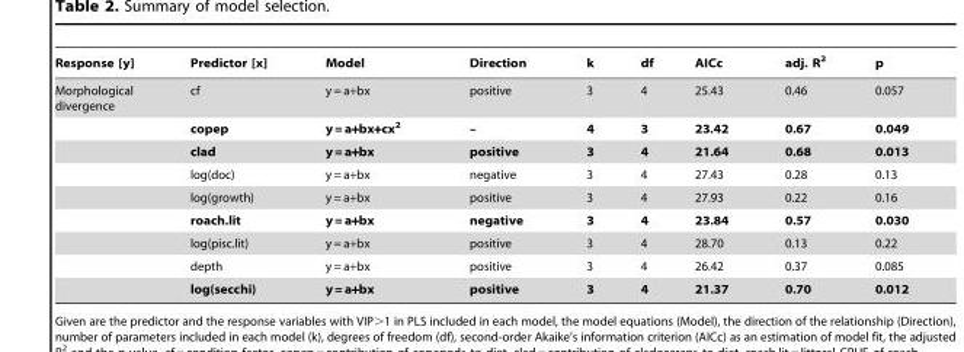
<table><thead><tr><td>Response [y]</td><td>Predictor [x]</td><td>Model</td><td>Direction</td><td>k</td><td>df</td><td>AICc</td><td>adj. R<sup>2</sup></td><td>p</td></tr></thead><tbody><tr><td rowspan="9">Morphological divergence</td><td>cf</td><td>y = a+bx</td><td>positive</td><td>3</td><td>4</td><td>25.43</td><td>0.46</td><td>0.057</td></tr><tr><td>copep</td><td>y = a+bx+cx<sup>2</sup></td><td>–</td><td>4</td><td>3</td><td>23.42</td><td>0.67</td><td>0.049</td></tr><tr><td>clad</td><td>y = a+bx</td><td>positive</td><td>3</td><td>4</td><td>21.64</td><td>0.68</td><td>0.013</td></tr><tr><td>log(doc)</td><td>y = a+bx</td><td>negative</td><td>3</td><td>4</td><td>27.43</td><td>0.28</td><td>0.13</td></tr><tr><td>log(growth)</td><td>y = a+bx</td><td>positive</td><td>3</td><td>4</td><td>27.93</td><td>0.22</td><td>0.16</td></tr><tr><td>roach.lit</td><td>y = a+bx</td><td>negative</td><td>3</td><td>4</td><td>23.84</td><td>0.57</td><td>0.030</td></tr><tr><td>log(pisc.lit)</td><td>y = a+bx</td><td>positive</td><td>3</td><td>4</td><td>28.70</td><td>0.13</td><td>0.22</td></tr><tr><td>depth</td><td>y = a+bx</td><td>positive</td><td>3</td><td>4</td><td>26.42</td><td>0.37</td><td>0.085</td></tr><tr><td>log(secchi)</td><td>y = a+bx</td><td>positive</td><td>3</td><td>4</td><td>21.37</td><td>0.70</td><td>0.012</td></tr></tbody></table>